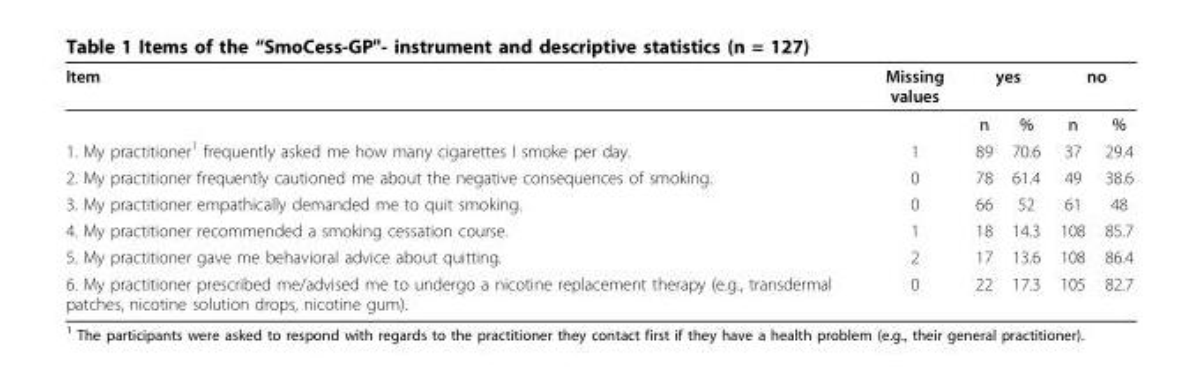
<table><thead><tr><td rowspan="2">Item</td><td rowspan="2">Missing values</td><td colspan="2">yes</td><td colspan="2">no</td></tr><tr><td>n</td><td>%</td><td>n</td><td>%</td></tr></thead><tbody><tr><td>1. My practitioner<sup>1</sup> frequently asked me how many cigarettes I smoke per day.</td><td>1</td><td>89</td><td>70.6</td><td>37</td><td>29.4</td></tr><tr><td>2. My practitioner frequently cautioned me about the negative consequences of smoking.</td><td>0</td><td>78</td><td>61.4</td><td>49</td><td>38.6</td></tr><tr><td>3. My practitioner empathically demanded me to quit smoking.</td><td>0</td><td>66</td><td>52</td><td>61</td><td>48</td></tr><tr><td>4. My practitioner recommended a smoking cessation course.</td><td>1</td><td>18</td><td>14.3</td><td>108</td><td>85.7</td></tr><tr><td>5. My practitioner gave me behavioral advice about quitting.</td><td>2</td><td>17</td><td>13.6</td><td>108</td><td>86.4</td></tr><tr><td>6. My practitioner prescribed me/advised me to undergo a nicotine replacement therapy (e.g., transdermal patches, nicotine solution drops, nicotine gum).</td><td>0</td><td>22</td><td>17.3</td><td>105</td><td>82.7</td></tr></tbody></table>